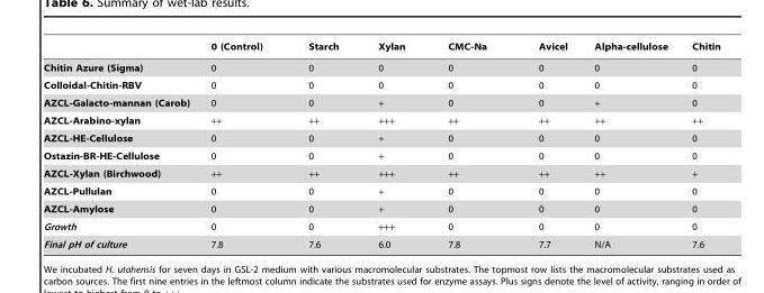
<table><thead><tr><td></td><td>0 (Control)</td><td>Starch</td><td>Xylan</td><td>CMC-Na</td><td>Avicel</td><td>Alpha-cellulose</td><td>Chitin</td></tr></thead><tbody><tr><td>Chitin Azure (Sigma)</td><td>0</td><td>0</td><td>0</td><td>0</td><td>0</td><td>0</td><td>0</td></tr><tr><td>Colloidal-Chitin-RBV</td><td>0</td><td>0</td><td>0</td><td>0</td><td>0</td><td>0</td><td>0</td></tr><tr><td>AZCL-Galacto-mannan (Carob)</td><td>0</td><td>0</td><td>+</td><td>0</td><td>0</td><td>+</td><td>0</td></tr><tr><td>AZCL-Arabino-xylan</td><td>++</td><td>++</td><td>+++</td><td>++</td><td>++</td><td>++</td><td>++</td></tr><tr><td>AZCL-HE-Cellulose</td><td>0</td><td>0</td><td>+</td><td>0</td><td>0</td><td>0</td><td>0</td></tr><tr><td>Ostazin-BR-HE-Cellulose</td><td>0</td><td>0</td><td>+</td><td>0</td><td>0</td><td>0</td><td>0</td></tr><tr><td>AZCL-Xylan (Birchwood)</td><td>++</td><td>++</td><td>+++</td><td>++</td><td>++</td><td>++</td><td>+</td></tr><tr><td>AZCL-Pullulan</td><td>0</td><td>0</td><td>+</td><td>0</td><td>0</td><td>0</td><td>0</td></tr><tr><td>AZCL-Amylose</td><td>0</td><td>0</td><td>+</td><td>0</td><td>0</td><td>0</td><td>0</td></tr><tr><td>Growth</td><td>0</td><td>0</td><td>+++</td><td>0</td><td>0</td><td>0</td><td>0</td></tr><tr><td>Final pH of culture</td><td>7.8</td><td>7.6</td><td>6.0</td><td>7.8</td><td>7.7</td><td>N/A</td><td>7.6</td></tr></tbody></table>